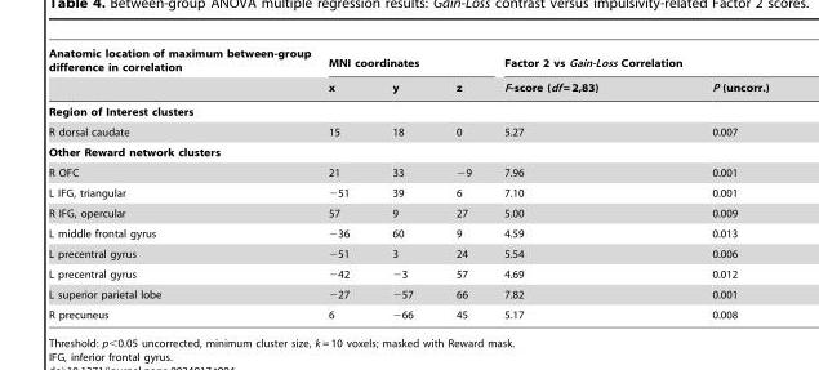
<table><thead><tr><td rowspan="2">Anatomic location of maximum between-group difference in correlation</td><td colspan="3">MNI coordinates</td><td colspan="2">Factor 2 vs Gain-Loss Correlation</td></tr><tr><td>x</td><td>y</td><td>z</td><td>F-score (df = 2,83)</td><td>P (uncorr.)</td></tr></thead><tbody><tr><td colspan="6">Region of Interest clusters</td></tr><tr><td>R dorsal caudate</td><td>15</td><td>18</td><td>0</td><td>5.27</td><td>0.007</td></tr><tr><td colspan="6">Other Reward network clusters</td></tr><tr><td>R OFC</td><td>21</td><td>33</td><td>−9</td><td>7.96</td><td>0.001</td></tr><tr><td>L IFG, triangular</td><td>−51</td><td>39</td><td>6</td><td>7.10</td><td>0.001</td></tr><tr><td>R IFG, opercular</td><td>57</td><td>9</td><td>27</td><td>5.00</td><td>0.009</td></tr><tr><td>L middle frontal gyrus</td><td>−36</td><td>60</td><td>9</td><td>4.59</td><td>0.013</td></tr><tr><td>L precentral gyrus</td><td>−51</td><td>3</td><td>24</td><td>5.54</td><td>0.006</td></tr><tr><td>L precentral gyrus</td><td>−42</td><td>−3</td><td>57</td><td>4.69</td><td>0.012</td></tr><tr><td>L superior parietal lobe</td><td>−27</td><td>−57</td><td>66</td><td>7.82</td><td>0.001</td></tr><tr><td>R precuneus</td><td>6</td><td>−66</td><td>45</td><td>5.17</td><td>0.008</td></tr></tbody></table>